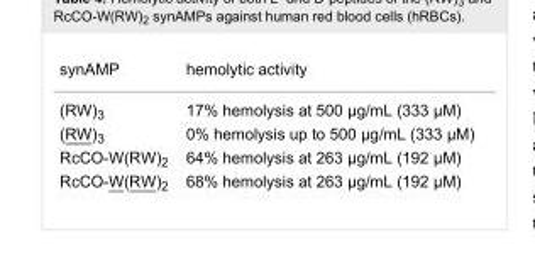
<table><tbody><tr><td>synAMP</td><td>hemolytic activity</td></tr><tr><td>(RW)<sub>3</sub></td><td>17% hemolysis at 500 µg/mL (333 µM)</td></tr><tr><td>(RW)<sub>3</sub></td><td>0% hemolysis up to 500 µg/mL (333 µM)</td></tr><tr><td>RcCO-W(RW)<sub>2</sub></td><td>64% hemolysis at 263 µg/mL (192 µM)</td></tr><tr><td>RcCO-W(RW)<sub>2</sub></td><td>68% hemolysis at 263 µg/mL (192 µM)</td></tr></tbody></table>